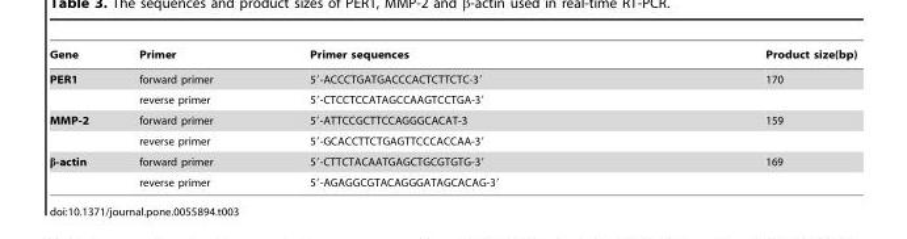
<table><thead><tr><td>Gene</td><td>Primer</td><td>Primer sequences</td><td>Product size(bp)</td></tr></thead><tbody><tr><td rowspan="2">PER1</td><td>forward primer</td><td>5′-ACCCTGATGACCCACTCTTCTC-3′</td><td>170</td></tr><tr><td>reverse primer</td><td>5′-CTCCTCCATAGCCAAGTCCTGA-3′</td><td></td></tr><tr><td rowspan="2">MMP-2</td><td>forward primer</td><td>5′-ATTCCGCTTCCAGGGCACAT-3</td><td>159</td></tr><tr><td>reverse primer</td><td>5′-GCACCTTCTGAGTTCCCACCAA-3′</td><td></td></tr><tr><td rowspan="2">β-actin</td><td>forward primer</td><td>5′-CTTCTACAATGAGCTGCGTGTG-3′</td><td>169</td></tr><tr><td>reverse primer</td><td>5′-AGAGGCGTACAGGGATAGCACAG-3′</td><td></td></tr></tbody></table>